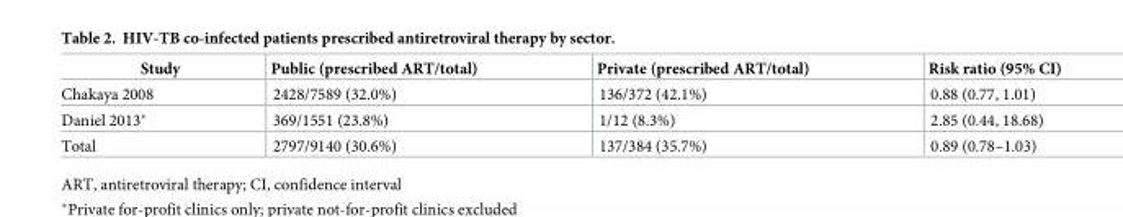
<table><thead><tr><td>Study</td><td>Public (prescribed ART/total)</td><td>Private (prescribed ART/total)</td><td>Risk ratio (95% CI)</td></tr></thead><tbody><tr><td>Chakaya 2008</td><td>2428/7589 (32.0%)</td><td>136/372 (42.1%)</td><td>0.88 (0.77, 1.01)</td></tr><tr><td>Daniel 2013*</td><td>369/1551 (23.8%)</td><td>1/12 (8.3%)</td><td>2.85 (0.44, 18.68)</td></tr><tr><td>Total</td><td>2797/9140 (30.6%)</td><td>137/384 (35.7%)</td><td>0.89 (0.78–1.03)</td></tr></tbody></table>